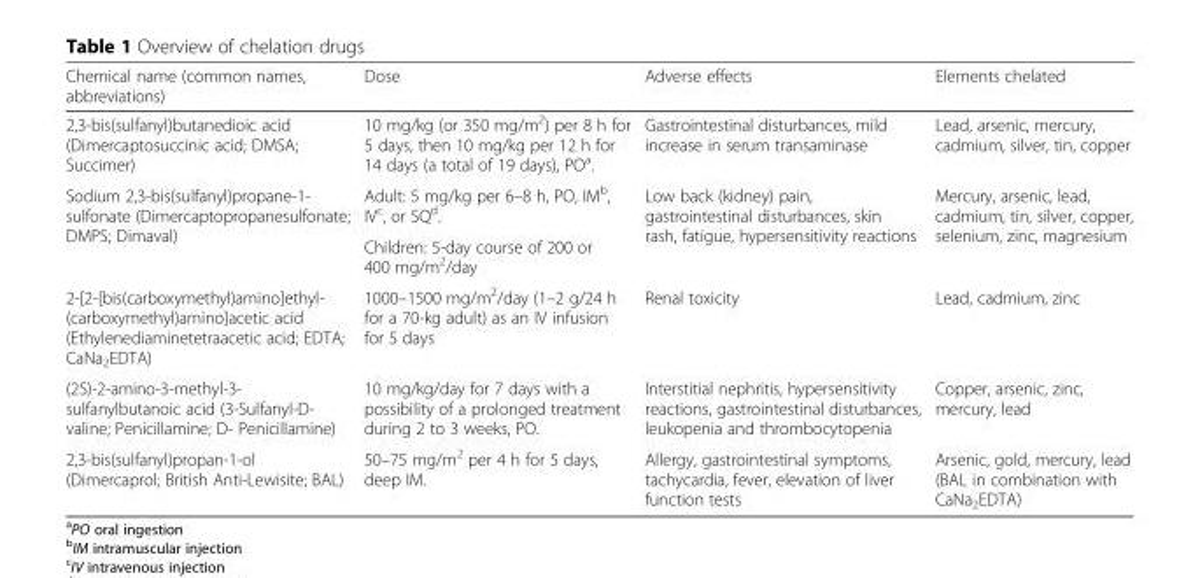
<table><thead><tr><td>Chemical name (common names, abbreviations)</td><td>Dose</td><td>Adverse effects</td><td>Elements chelated</td></tr></thead><tbody><tr><td>2,3-bis(sulfanyl)butanedioic acid (Dimercaptosuccinic acid; DMSA; Succimer)</td><td>10 mg/kg (or 350 mg/m<sup>2</sup>) per 8 h for 5 days, then 10 mg/kg per 12 h for 14 days (a total of 19 days), PO<sup>a</sup>.</td><td>Gastrointestinal disturbances, mild increase in serum transaminase</td><td>Lead, arsenic, mercury, cadmium, silver, tin, copper</td></tr><tr><td rowspan="2">Sodium 2,3-bis(sulfanyl)propane-1- sulfonate (Dimercaptopropanesulfonate; DMPS; Dimaval)</td><td>Adult: 5 mg/kg per 6–8 h, PO, IM<sup>b</sup>, IV<sup>c</sup>, or SQ<sup>d</sup>.</td><td rowspan="2">Low back (kidney) pain, gastrointestinal disturbances, skin rash, fatigue, hypersensitivity reactions</td><td rowspan="2">Mercury, arsenic, lead, cadmium, tin, silver, copper, selenium, zinc, magnesium</td></tr><tr><td>Children: 5-day course of 200 or 400 mg/m<sup>2</sup>/day</td></tr><tr><td>2-[2-[bis(carboxymethyl)amino]ethyl- (carboxymethyl)amino]acetic acid (Ethylenediaminetetraacetic acid; EDTA; CaNa<sub>2</sub>EDTA)</td><td>1000–1500 mg/m<sup>2</sup>/day (1–2 g/24 h for a 70-kg adult) as an IV infusion for 5 days</td><td>Renal toxicity</td><td>Lead, cadmium, zinc</td></tr><tr><td>(2S)-2-amino-3-methyl-3- sulfanylbutanoic acid (3-Sulfanyl-D- valine; Penicillamine; D- Penicillamine)</td><td>10 mg/kg/day for 7 days with a possibility of a prolonged treatment during 2 to 3 weeks, PO.</td><td>Interstitial nephritis, hypersensitivity reactions, gastrointestinal disturbances, leukopenia and thrombocytopenia</td><td>Copper, arsenic, zinc, mercury, lead</td></tr><tr><td>2,3-bis(sulfanyl)propan-1-ol (Dimercaprol; British Anti-Lewisite; BAL)</td><td>50–75 mg/m<sup>2</sup> per 4 h for 5 days, deep IM.</td><td>Allergy, gastrointestinal symptoms, tachycardia, fever, elevation of liver function tests</td><td>Arsenic, gold, mercury, lead (BAL in combination with CaNa<sub>2</sub>EDTA)</td></tr></tbody></table>